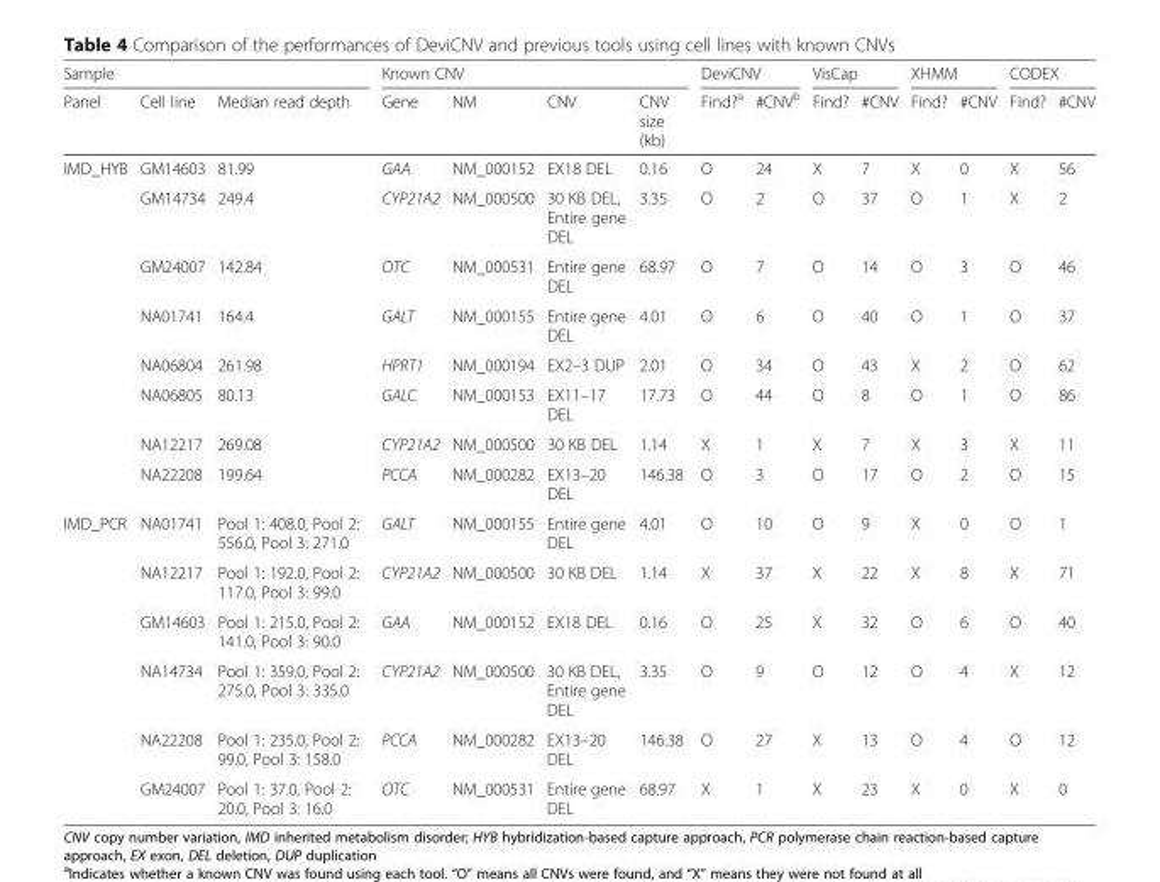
<table><thead><tr><td colspan="3">Sample</td><td colspan="4">Known CNV</td><td colspan="2">DeviCNV</td><td colspan="2">VisCap</td><td colspan="2">XHMM</td><td colspan="2">CODEX</td></tr><tr><td>Panel</td><td>Cell line</td><td>Median read depth</td><td>Gene</td><td>NM</td><td>CNV</td><td>CNV size (kb)</td><td>Find?<sup>a</sup></td><td>#CNV<sup>b</sup></td><td>Find?</td><td>#CNV</td><td>Find?</td><td>#CNV</td><td>Find?</td><td>#CNV</td></tr></thead><tbody><tr><td rowspan="8">IMD_HYB</td><td>GM14603</td><td>81.99</td><td>GAA</td><td>NM_000152</td><td>EX18 DEL</td><td>0.16</td><td>O</td><td>24</td><td>X</td><td>7</td><td>X</td><td>0</td><td>X</td><td>56</td></tr><tr><td>GM14734</td><td>249.4</td><td>CYP21A2</td><td>NM_000500</td><td>30 KB DEL, Entire gene DEL</td><td>3.35</td><td>O</td><td>2</td><td>O</td><td>37</td><td>O</td><td>1</td><td>X</td><td>2</td></tr><tr><td>GM24007</td><td>142.84</td><td>OTC</td><td>NM_000531</td><td>Entire gene DEL</td><td>68.97</td><td>O</td><td>7</td><td>O</td><td>14</td><td>O</td><td>3</td><td>O</td><td>46</td></tr><tr><td>NA01741</td><td>164.4</td><td>GALT</td><td>NM_000155</td><td>Entire gene DEL</td><td>4.01</td><td>O</td><td>6</td><td>O</td><td>40</td><td>O</td><td>1</td><td>O</td><td>37</td></tr><tr><td>NA06804</td><td>261.98</td><td>HPRT1</td><td>NM_000194</td><td>EX2–3 DUP</td><td>2.01</td><td>O</td><td>34</td><td>O</td><td>43</td><td>X</td><td>2</td><td>O</td><td>62</td></tr><tr><td>NA06805</td><td>80.13</td><td>GALC</td><td>NM_000153</td><td>EX11–17 DEL</td><td>17.73</td><td>O</td><td>44</td><td>O</td><td>8</td><td>O</td><td>1</td><td>O</td><td>86</td></tr><tr><td>NA12217</td><td>269.08</td><td>CYP21A2</td><td>NM_000500</td><td>30 KB DEL</td><td>1.14</td><td>X</td><td>1</td><td>X</td><td>7</td><td>X</td><td>3</td><td>X</td><td>11</td></tr><tr><td>NA22208</td><td>199.64</td><td>PCCA</td><td>NM_000282</td><td>EX13–20 DEL</td><td>146.38</td><td>O</td><td>3</td><td>O</td><td>17</td><td>O</td><td>2</td><td>O</td><td>15</td></tr><tr><td rowspan="6">IMD_PCR</td><td>NA01741</td><td>Pool 1: 408.0, Pool 2: 556.0, Pool 3: 271.0</td><td>GALT</td><td>NM_000155</td><td>Entire gene DEL</td><td>4.01</td><td>O</td><td>10</td><td>O</td><td>9</td><td>X</td><td>0</td><td>O</td><td>1</td></tr><tr><td>NA12217</td><td>Pool 1: 192.0, Pool 2: 117.0, Pool 3: 99.0</td><td>CYP21A2</td><td>NM_000500</td><td>30 KB DEL</td><td>1.14</td><td>X</td><td>37</td><td>X</td><td>22</td><td>X</td><td>8</td><td>X</td><td>71</td></tr><tr><td>GM14603</td><td>Pool 1: 215.0, Pool 2: 141.0, Pool 3: 90.0</td><td>GAA</td><td>NM_000152</td><td>EX18 DEL</td><td>0.16</td><td>O</td><td>25</td><td>X</td><td>32</td><td>O</td><td>6</td><td>O</td><td>40</td></tr><tr><td>NA14734</td><td>Pool 1: 359.0, Pool 2: 275.0, Pool 3: 335.0</td><td>CYP21A2</td><td>NM_000500</td><td>30 KB DEL, Entire gene DEL</td><td>3.35</td><td>O</td><td>9</td><td>O</td><td>12</td><td>O</td><td>4</td><td>X</td><td>12</td></tr><tr><td>NA22208</td><td>Pool 1: 235.0, Pool 2: 99.0, Pool 3: 158.0</td><td>PCCA</td><td>NM_000282</td><td>EX13–20 DEL</td><td>146.38</td><td>O</td><td>27</td><td>X</td><td>13</td><td>O</td><td>4</td><td>O</td><td>12</td></tr><tr><td>GM24007</td><td>Pool 1: 37.0, Pool 2: 20.0, Pool 3: 16.0</td><td>OTC</td><td>NM_000531</td><td>Entire gene DEL</td><td>68.97</td><td>X</td><td>1</td><td>X</td><td>23</td><td>X</td><td>0</td><td>X</td><td>0</td></tr></tbody></table>